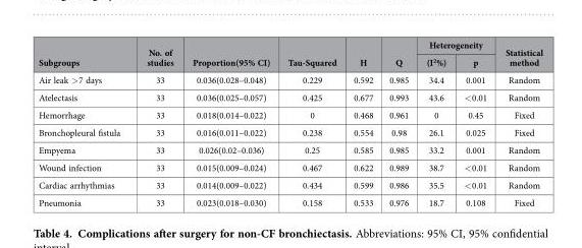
<table><thead><tr><td rowspan="2">Subgroups</td><td rowspan="2">No. of studies</td><td rowspan="2">Proportion(95% CI)</td><td rowspan="2">Tau-Squared</td><td rowspan="2">H</td><td rowspan="2">Q</td><td colspan="2">Heterogeneity</td><td rowspan="2">Statistical method</td></tr><tr><td>(I<sup>2</sup>%)</td><td>p</td></tr></thead><tbody><tr><td>Air leak &gt; 7 days</td><td>33</td><td>0.036(0.028–0.048)</td><td>0.229</td><td>0.592</td><td>0.985</td><td>34.4</td><td>0.001</td><td>Random</td></tr><tr><td>Atelectasis</td><td>33</td><td>0.036(0.025–0.057)</td><td>0.425</td><td>0.677</td><td>0.993</td><td>43.6</td><td>&lt; 0.01</td><td>Random</td></tr><tr><td>Hemorrhage</td><td>33</td><td>0.018(0.014–0.022)</td><td>0</td><td>0.468</td><td>0.961</td><td>0</td><td>0.45</td><td>Fixed</td></tr><tr><td>Bronchopleural fistula</td><td>33</td><td>0.016(0.011–0.022)</td><td>0.238</td><td>0.554</td><td>0.98</td><td>26.1</td><td>0.025</td><td>Fixed</td></tr><tr><td>Empyema</td><td>33</td><td>0.026(0.02–0.036)</td><td>0.25</td><td>0.585</td><td>0.985</td><td>33.2</td><td>0.001</td><td>Random</td></tr><tr><td>Wound infection</td><td>33</td><td>0.015(0.009–0.024)</td><td>0.467</td><td>0.622</td><td>0.989</td><td>38.7</td><td>&lt; 0.01</td><td>Random</td></tr><tr><td>Cardiac arrhythmias</td><td>33</td><td>0.014(0.009–0.022)</td><td>0.434</td><td>0.599</td><td>0.986</td><td>35.5</td><td>&lt; 0.01</td><td>Random</td></tr><tr><td>Pneumonia</td><td>33</td><td>0.023(0.018–0.030)</td><td>0.158</td><td>0.533</td><td>0.976</td><td>18.7</td><td>0.108</td><td>Fixed</td></tr></tbody></table>